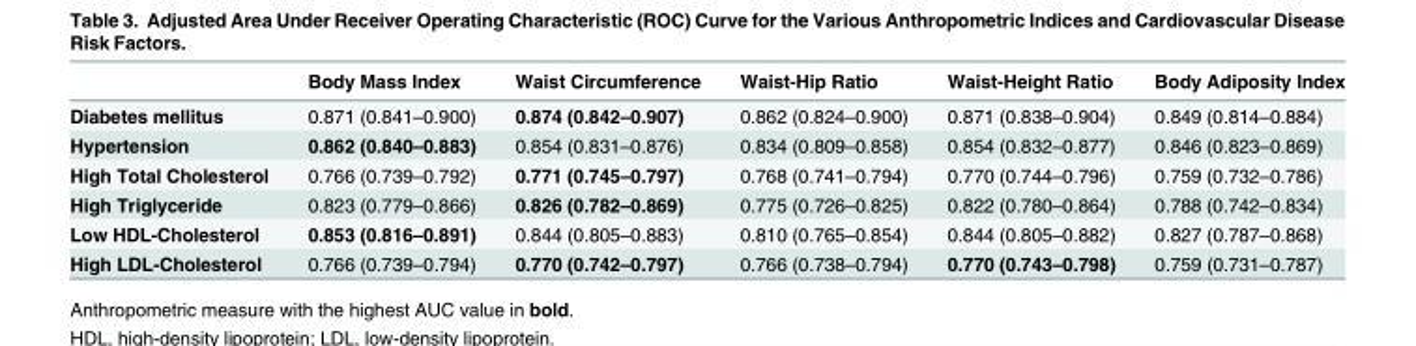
<table><thead><tr><td></td><td>Body Mass Index</td><td>Waist Circumference</td><td>Waist-Hip Ratio</td><td>Waist-Height Ratio</td><td>Body Adiposity Index</td></tr></thead><tbody><tr><td>Diabetes mellitus</td><td>0.871 (0.841–0.900)</td><td>0.874 (0.842–0.907)</td><td>0.862 (0.824–0.900)</td><td>0.871 (0.838–0.904)</td><td>0.849 (0.814–0.884)</td></tr><tr><td>Hypertension</td><td>0.862 (0.840–0.883)</td><td>0.854 (0.831–0.876)</td><td>0.834 (0.809–0.858)</td><td>0.854 (0.832–0.877)</td><td>0.846 (0.823–0.869)</td></tr><tr><td>High Total Cholesterol</td><td>0.766 (0.739–0.792)</td><td>0.771 (0.745–0.797)</td><td>0.768 (0.741–0.794)</td><td>0.770 (0.744–0.796)</td><td>0.759 (0.732–0.786)</td></tr><tr><td>High Triglyceride</td><td>0.823 (0.779–0.866)</td><td>0.826 (0.782–0.869)</td><td>0.775 (0.726–0.825)</td><td>0.822 (0.780–0.864)</td><td>0.788 (0.742–0.834)</td></tr><tr><td>Low HDL-Cholesterol</td><td>0.853 (0.816–0.891)</td><td>0.844 (0.805–0.883)</td><td>0.810 (0.765–0.854)</td><td>0.844 (0.805–0.882)</td><td>0.827 (0.787–0.868)</td></tr><tr><td>High LDL-Cholesterol</td><td>0.766 (0.739–0.794)</td><td>0.770 (0.742–0.797)</td><td>0.766 (0.738–0.794)</td><td>0.770 (0.743–0.798)</td><td>0.759 (0.731–0.787)</td></tr></tbody></table>